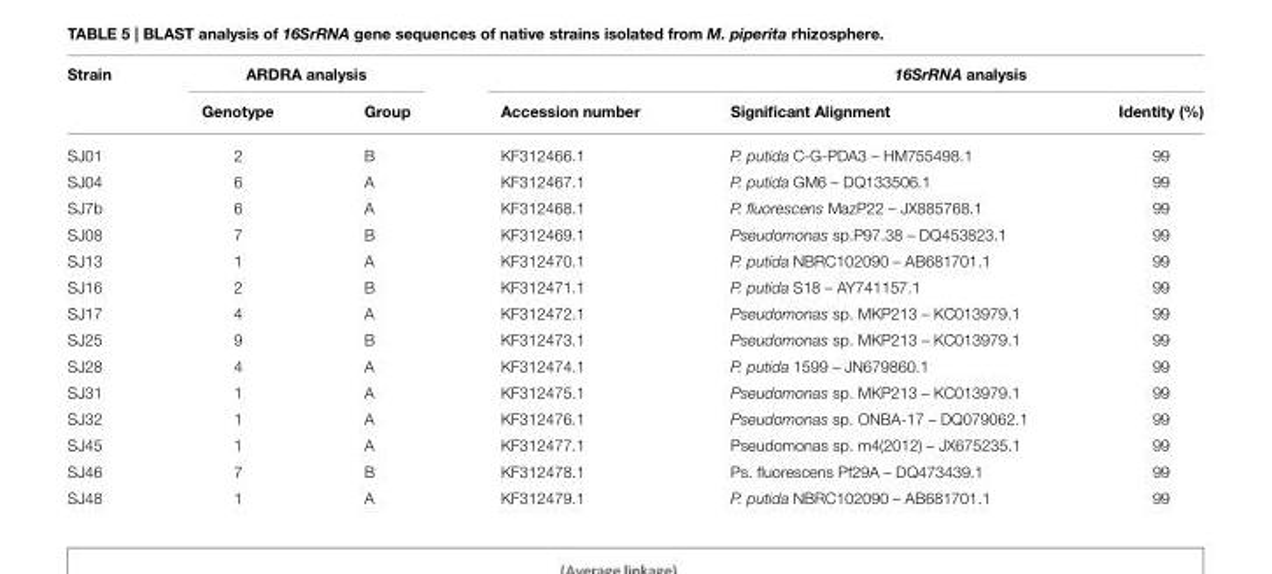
<table><thead><tr><td rowspan="2">Strain</td><td colspan="2">ARDRA analysis</td><td rowspan="2">Accession number</td><td colspan="2">16SrRNA analysis</td></tr><tr><td>Genotype</td><td>Group</td><td>Significant Alignment</td><td>Identity (%)</td></tr></thead><tbody><tr><td>SJ01</td><td>2</td><td>B</td><td>KF312466.1</td><td>P. putida C-G-PDA3 – HM755498.1</td><td>99</td></tr><tr><td>SJ04</td><td>6</td><td>A</td><td>KF312467.1</td><td>P. putida GM6 – DQ133506.1</td><td>99</td></tr><tr><td>SJ7b</td><td>6</td><td>A</td><td>KF312468.1</td><td>P. fluorescens MazP22 – JX885768.1</td><td>99</td></tr><tr><td>SJ08</td><td>7</td><td>B</td><td>KF312469.1</td><td>Pseudomonas sp.P97.38 – DQ453823.1</td><td>99</td></tr><tr><td>SJ13</td><td>1</td><td>A</td><td>KF312470.1</td><td>P. putida NBRC102090 – AB681701.1</td><td>99</td></tr><tr><td>SJ16</td><td>2</td><td>B</td><td>KF312471.1</td><td>P. putida S18 – AY741157.1</td><td>99</td></tr><tr><td>SJ17</td><td>4</td><td>A</td><td>KF312472.1</td><td>Pseudomonas sp. MKP213 – KC013979.1</td><td>99</td></tr><tr><td>SJ25</td><td>9</td><td>B</td><td>KF312473.1</td><td>Pseudomonas sp. MKP213 – KC013979.1</td><td>99</td></tr><tr><td>SJ28</td><td>4</td><td>A</td><td>KF312474.1</td><td>P. putida 1599 – JN679860.1</td><td>99</td></tr><tr><td>SJ31</td><td>1</td><td>A</td><td>KF312475.1</td><td>Pseudomonas sp. MKP213 – KC013979.1</td><td>99</td></tr><tr><td>SJ32</td><td>1</td><td>A</td><td>KF312476.1</td><td>Pseudomonas sp. ONBA-17 – DQ079062.1</td><td>99</td></tr><tr><td>SJ45</td><td>1</td><td>A</td><td>KF312477.1</td><td>Pseudomonas sp. m4(2012) – JX675235.1</td><td>99</td></tr><tr><td>SJ46</td><td>7</td><td>B</td><td>KF312478.1</td><td>Ps. fluorescens Pf29A – DQ473439.1</td><td>99</td></tr><tr><td>SJ48</td><td>1</td><td>A</td><td>KF312479.1</td><td>P. putida NBRC102090 – AB681701.1</td><td>99</td></tr></tbody></table>